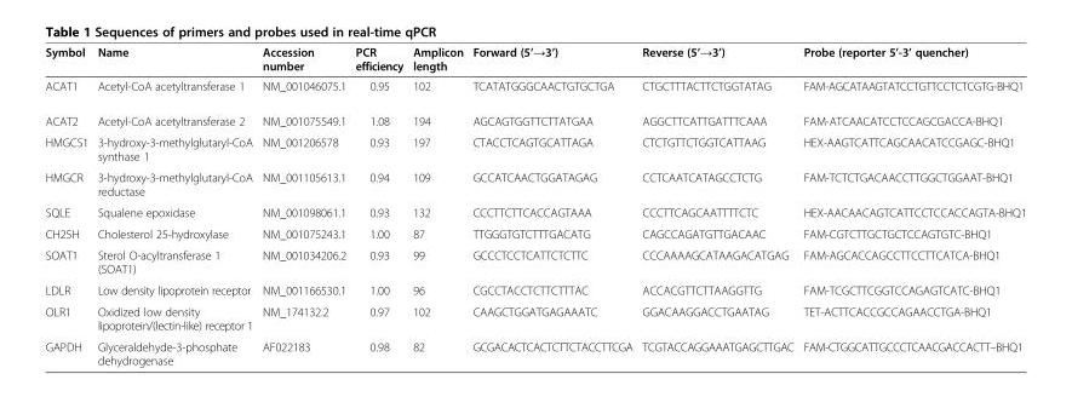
<table><thead><tr><td>Symbol</td><td>Name</td><td>Accession number</td><td>PCR efficiency</td><td>Amplicon length</td><td>Forward (5’→3’)</td><td>Reverse (5’→3’)</td><td>Probe (reporter 5’-3’ quencher)</td></tr></thead><tbody><tr><td>ACAT1</td><td>Acetyl-CoA acetyltransferase 1</td><td>NM_001046075.1</td><td>0.95</td><td>102</td><td>TCATATGGGCAACTGTGCTGA</td><td>CTGCTTTACTTCTGGTATAG</td><td>FAM-AGCATAAGTATCCTGTTCCTCTCGTG-BHQ1</td></tr><tr><td>ACAT2</td><td>Acetyl-CoA acetyltransferase 2</td><td>NM_001075549.1</td><td>1.08</td><td>194</td><td>AGCAGTGGTTCTTATGAA</td><td>AGGCTTCATTGATTTCAAA</td><td>FAM-ATCAACATCCTCCAGCGACCA-BHQ1</td></tr><tr><td>HMGCS1</td><td>3-hydroxy-3-methylglutaryl-CoA synthase 1</td><td>NM_001206578</td><td>0.93</td><td>197</td><td>CTACCTCAGTGCATTAGA</td><td>CTCTGTTCTGGTCATTAAG</td><td>HEX-AAGTCATTCAGCAACATCCGAGC-BHQ1</td></tr><tr><td>HMGCR</td><td>3-hydroxy-3-methylglutaryl-CoA reductase</td><td>NM_001105613.1</td><td>0.94</td><td>109</td><td>GCCATCAACTGGATAGAG</td><td>CCTCAATCATAGCCTCTG</td><td>FAM-TCTCTGACAACCTTGGCTGGAAT-BHQ1</td></tr><tr><td>SQLE</td><td>Squalene epoxidase</td><td>NM_001098061.1</td><td>0.93</td><td>132</td><td>CCCTTCTTCACCAGTAAA</td><td>CCCTTCAGCAATTTTCTC</td><td>HEX-AACAACAGTCATTCCTCCACCAGTA-BHQ1</td></tr><tr><td>CH25H</td><td>Cholesterol 25-hydroxylase</td><td>NM_001075243.1</td><td>1.00</td><td>87</td><td>TTGGGTGTCTTTGACATG</td><td>CAGCCAGATGTTGACAAC</td><td>FAM-CGTCTTGCTGCTCCAGTGTC-BHQ1</td></tr><tr><td>SOAT1</td><td>Sterol O-acyltransferase 1 (SOAT1)</td><td>NM_001034206.2</td><td>0.93</td><td>99</td><td>GCCCTCCTCATTCTCTTC</td><td>CCCAAAAGCATAAGACATGAG</td><td>FAM-AGCACCAGCCTTCCTTCATCA-BHQ1</td></tr><tr><td>LDLR</td><td>Low density lipoprotein receptor</td><td>NM_001166530.1</td><td>1.00</td><td>96</td><td>CGCCTACCTCTTCTTTAC</td><td>ACCACGTTCTTAAGGTTG</td><td>FAM-TCGCTTCGGTCCAGAGTCATC-BHQ1</td></tr><tr><td>OLR1</td><td>Oxidized low density lipoprotein/(lectin-like) receptor 1</td><td>NM_174132.2</td><td>0.97</td><td>102</td><td>CAAGCTGGATGAGAAATC</td><td>GGACAAGGACCTGAATAG</td><td>TET-ACTTCACCGCCAGAACCTGA-BHQ1</td></tr><tr><td>GAPDH</td><td>Glyceraldehyde-3-phosphate dehydrogenase</td><td>AF022183</td><td>0.98</td><td>82</td><td>GCGACACTCACTCTTCTACCTTCGA</td><td>TCGTACCAGGAAATGAGCTTGAC</td><td>FAM-CTGGCATTGCCCTCAACGACCACTT–BHQ1</td></tr></tbody></table>